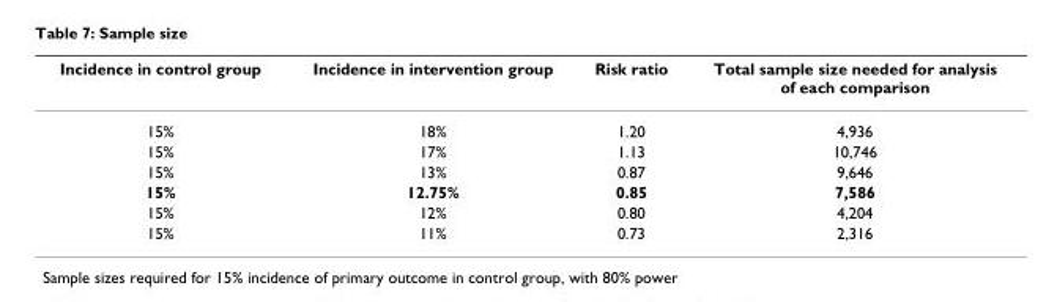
<table><thead><tr><td>Incidence in control group</td><td>Incidence in intervention group</td><td>Risk ratio</td><td>Total sample size needed for analysis of each comparison</td></tr></thead><tbody><tr><td>15%</td><td>18%</td><td>1.20</td><td>4,936</td></tr><tr><td>15%</td><td>17%</td><td>1.13</td><td>10,746</td></tr><tr><td>15%</td><td>13%</td><td>0.87</td><td>9,646</td></tr><tr><td>15%</td><td>12.75%</td><td>0.85</td><td>7,586</td></tr><tr><td>15%</td><td>12%</td><td>0.80</td><td>4,204</td></tr><tr><td>15%</td><td>11%</td><td>0.73</td><td>2,316</td></tr></tbody></table>